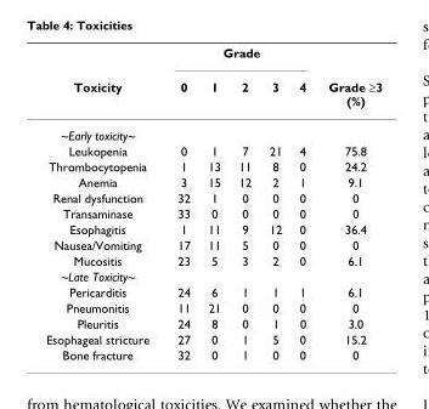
<table><thead><tr><td rowspan="2">Toxicity</td><td colspan="5">Grade</td><td rowspan="2">Grade ≥3 (%)</td></tr><tr><td>0</td><td>1</td><td>2</td><td>3</td><td>4</td></tr></thead><tbody><tr><td colspan="7">~Early toxicity~</td></tr><tr><td>Leukopenia</td><td>0</td><td>1</td><td>7</td><td>21</td><td>4</td><td>75.8</td></tr><tr><td>Thrombocytopenia</td><td>1</td><td>13</td><td>11</td><td>8</td><td>0</td><td>24.2</td></tr><tr><td>Anemia</td><td>3</td><td>15</td><td>12</td><td>2</td><td>1</td><td>9.1</td></tr><tr><td>Renal dysfunction</td><td>32</td><td>1</td><td>0</td><td>0</td><td>0</td><td>0</td></tr><tr><td>Transaminase</td><td>33</td><td>0</td><td>0</td><td>0</td><td>0</td><td>0</td></tr><tr><td>Esophagitis</td><td>1</td><td>11</td><td>9</td><td>12</td><td>0</td><td>36.4</td></tr><tr><td>Nausea/Vomiting</td><td>17</td><td>11</td><td>5</td><td>0</td><td>0</td><td>0</td></tr><tr><td>Mucositis</td><td>23</td><td>5</td><td>3</td><td>2</td><td>0</td><td>6.1</td></tr><tr><td colspan="7">~Late Toxicity~</td></tr><tr><td>Pericarditis</td><td>24</td><td>6</td><td>1</td><td>1</td><td>1</td><td>6.1</td></tr><tr><td>Pneumonitis</td><td>11</td><td>21</td><td>0</td><td>0</td><td>0</td><td>0</td></tr><tr><td>Pleuritis</td><td>24</td><td>8</td><td>0</td><td>1</td><td>0</td><td>3.0</td></tr><tr><td>Esophageal stricture</td><td>27</td><td>0</td><td>1</td><td>5</td><td>0</td><td>15.2</td></tr><tr><td>Bone fracture</td><td>32</td><td>0</td><td>1</td><td>0</td><td>0</td><td>0</td></tr></tbody></table>